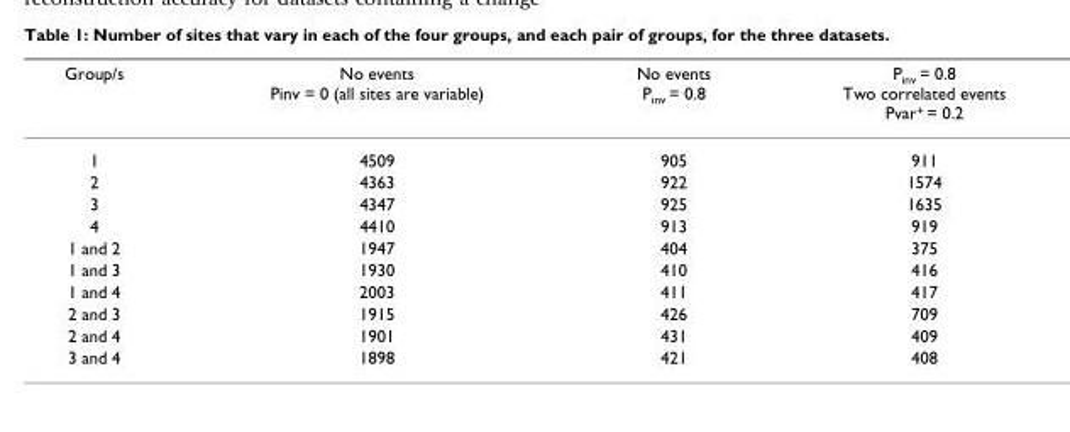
<table><thead><tr><td>Group/s</td><td>No events Pinv = 0 (all sites are variable)</td><td>No events P<sub>inv</sub> = 0.8</td><td>P<sub>inv</sub> = 0.8 Two correlated events Pvar<sup>+</sup> = 0.2</td></tr></thead><tbody><tr><td>1</td><td>4509</td><td>905</td><td>911</td></tr><tr><td>2</td><td>4363</td><td>922</td><td>1574</td></tr><tr><td>3</td><td>4347</td><td>925</td><td>1635</td></tr><tr><td>4</td><td>4410</td><td>913</td><td>919</td></tr><tr><td>1 and 2</td><td>1947</td><td>404</td><td>375</td></tr><tr><td>1 and 3</td><td>1930</td><td>410</td><td>416</td></tr><tr><td>1 and 4</td><td>2003</td><td>411</td><td>417</td></tr><tr><td>2 and 3</td><td>1915</td><td>426</td><td>709</td></tr><tr><td>2 and 4</td><td>1901</td><td>431</td><td>409</td></tr><tr><td>3 and 4</td><td>1898</td><td>421</td><td>408</td></tr></tbody></table>